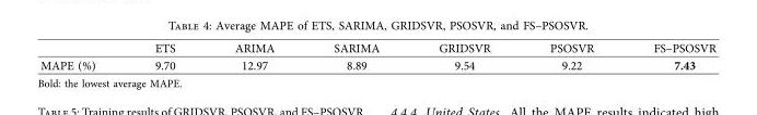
<table><thead><tr><td></td><td>ETS</td><td>ARIMA</td><td>SARIMA</td><td>GRIDSVR</td><td>PSOSVR</td><td>FS–PSOSVR</td></tr></thead><tbody><tr><td>MAPE (%)</td><td>9.70</td><td>12.97</td><td>8.89</td><td>9.54</td><td>9.22</td><td>7.43</td></tr></tbody></table>